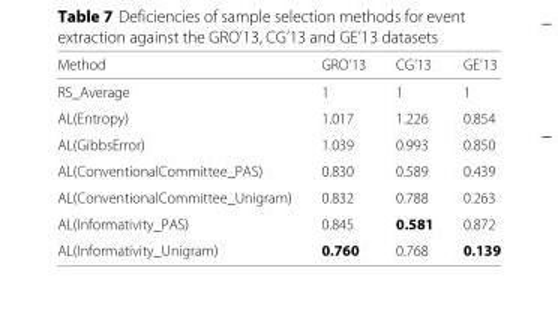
<table><thead><tr><td>Method</td><td>GRO’13</td><td>CG’13</td><td>GE’13</td></tr></thead><tbody><tr><td>RS_Average</td><td>1</td><td>1</td><td>1</td></tr><tr><td>AL(Entropy)</td><td>1.017</td><td>1.226</td><td>0.854</td></tr><tr><td>AL(GibbsError)</td><td>1.039</td><td>0.993</td><td>0.850</td></tr><tr><td>AL(ConventionalCommittee_PAS)</td><td>0.830</td><td>0.589</td><td>0.439</td></tr><tr><td>AL(ConventionalCommittee_Unigram)</td><td>0.832</td><td>0.788</td><td>0.263</td></tr><tr><td>AL(Informativity_PAS)</td><td>0.845</td><td>0.581</td><td>0.872</td></tr><tr><td>AL(Informativity_Unigram)</td><td>0.760</td><td>0.768</td><td>0.139</td></tr></tbody></table>